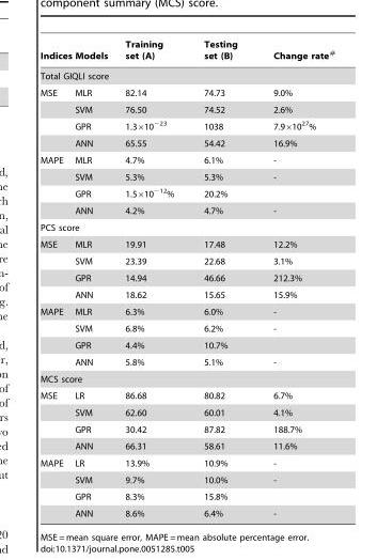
<table><thead><tr><td>Indices</td><td>Models</td><td>Training set (A)</td><td>Testing set (B)</td><td>Change rate<sup>#</sup></td></tr></thead><tbody><tr><td colspan="5">Total GIQLI score</td></tr><tr><td rowspan="4">MSE</td><td>MLR</td><td>82.14</td><td>74.73</td><td>9.0%</td></tr><tr><td>SVM</td><td>76.50</td><td>74.52</td><td>2.6%</td></tr><tr><td>GPR</td><td>1.3×10<sup>−23</sup></td><td>1038</td><td>7.9×10<sup>27</sup>%</td></tr><tr><td>ANN</td><td>65.55</td><td>54.42</td><td>16.9%</td></tr><tr><td rowspan="4">MAPE</td><td>MLR</td><td>4.7%</td><td>6.1%</td><td>-</td></tr><tr><td>SVM</td><td>5.3%</td><td>5.3%</td><td>-</td></tr><tr><td>GPR</td><td>1.5×10<sup>−12</sup>%</td><td>20.2%</td><td></td></tr><tr><td>ANN</td><td>4.2%</td><td>4.7%</td><td>-</td></tr><tr><td colspan="5">PCS score</td></tr><tr><td rowspan="4">MSE</td><td>MLR</td><td>19.91</td><td>17.48</td><td>12.2%</td></tr><tr><td>SVM</td><td>23.39</td><td>22.68</td><td>3.1%</td></tr><tr><td>GPR</td><td>14.94</td><td>46.66</td><td>212.3%</td></tr><tr><td>ANN</td><td>18.62</td><td>15.65</td><td>15.9%</td></tr><tr><td rowspan="4">MAPE</td><td>MLR</td><td>6.3%</td><td>6.0%</td><td>-</td></tr><tr><td>SVM</td><td>6.8%</td><td>6.2%</td><td>-</td></tr><tr><td>GPR</td><td>4.4%</td><td>10.7%</td><td></td></tr><tr><td>ANN</td><td>5.8%</td><td>5.1%</td><td>-</td></tr><tr><td colspan="5">MCS score</td></tr><tr><td rowspan="4">MSE</td><td>LR</td><td>86.68</td><td>80.82</td><td>6.7%</td></tr><tr><td>SVM</td><td>62.60</td><td>60.01</td><td>4.1%</td></tr><tr><td>GPR</td><td>30.42</td><td>87.82</td><td>188.7%</td></tr><tr><td>ANN</td><td>66.31</td><td>58.61</td><td>11.6%</td></tr><tr><td rowspan="4">MAPE</td><td>LR</td><td>13.9%</td><td>10.9%</td><td>-</td></tr><tr><td>SVM</td><td>9.7%</td><td>10.0%</td><td>-</td></tr><tr><td>GPR</td><td>8.3%</td><td>15.8%</td><td></td></tr><tr><td>ANN</td><td>8.6%</td><td>6.4%</td><td>-</td></tr></tbody></table>